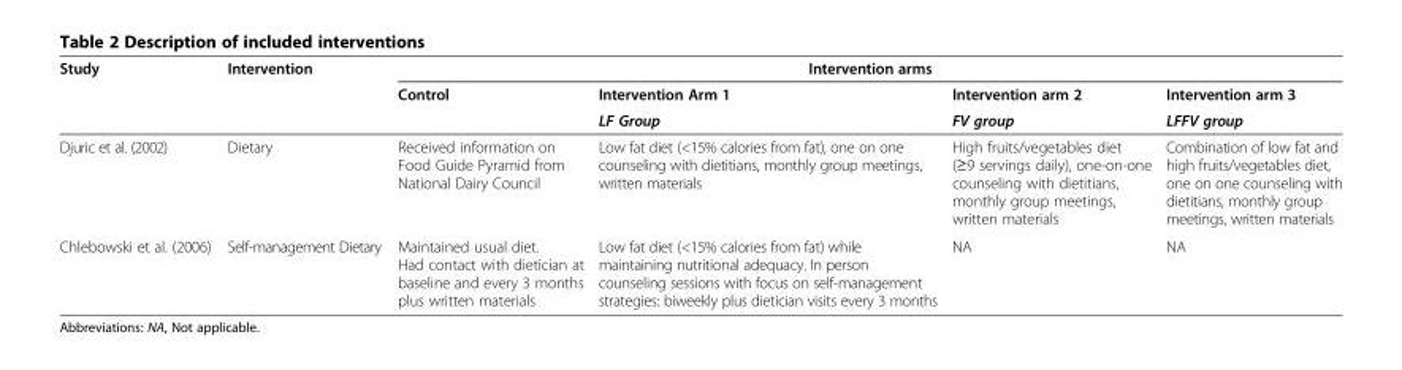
<table><thead><tr><td rowspan="3">Study</td><td rowspan="3">Intervention</td><td colspan="4">Intervention arms</td></tr><tr><td rowspan="2">Control</td><td rowspan="2">Intervention Arm 1 LF Group</td><td rowspan="2">Intervention arm 2 FV group</td><td rowspan="2">Intervention arm 3 LFFV group</td></tr><tr></tr></thead><tbody><tr><td>Djuric et al. (2002)</td><td>Dietary</td><td>Received information on Food Guide Pyramid from National Dairy Council</td><td>Low fat diet (&lt;15% calories from fat), one on one counseling with dietitians, monthly group meetings, written materials</td><td>High fruits/vegetables diet (≥9 servings daily), one-on-one counseling with dietitians, monthly group meetings, written materials</td><td>Combination of low fat and high fruits/vegetables diet, one on one counseling with dietitians, monthly group meetings, written materials</td></tr><tr><td>Chlebowski et al. (2006)</td><td>Self-management Dietary</td><td>Maintained usual diet. Had contact with dietician at baseline and every 3 months plus written materials</td><td>Low fat diet (&lt;15% calories from fat) while maintaining nutritional adequacy. In person counseling sessions with focus on self-management strategies: biweekly plus dietician visits every 3 months</td><td>NA</td><td>NA</td></tr></tbody></table>